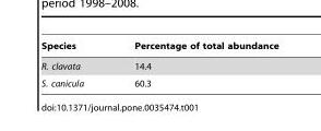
<table><thead><tr><td>Species</td><td>Percentage of total abundance</td></tr></thead><tbody><tr><td>R. clavata</td><td>14.4</td></tr><tr><td>S. canicula</td><td>60.3</td></tr></tbody></table>